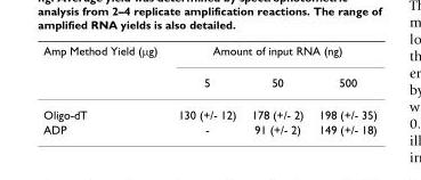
<table><thead><tr><td rowspan="2">Amp Method Yield (μg)</td><td colspan="3">Amount of input RNA (ng)</td></tr><tr><td>5</td><td>50</td><td>500</td></tr></thead><tbody><tr><td>Oligo-dT</td><td>130 (+/- 12)</td><td>178 (+/- 2)</td><td>198 (+/- 35)</td></tr><tr><td>ADP</td><td>-</td><td>91 (+/- 2)</td><td>149 (+/- 18)</td></tr></tbody></table>